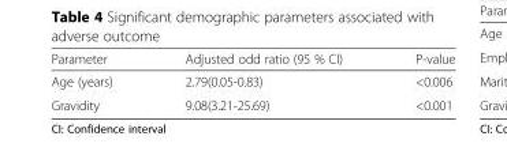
<table><thead><tr><td>Parameter</td><td>Adjusted odd ratio (95 % CI)</td><td>P-value</td></tr></thead><tbody><tr><td>Age (years)</td><td>2.79(0.05-0.83)</td><td>&lt;0.006</td></tr><tr><td>Gravidity</td><td>9.08(3.21-25.69)</td><td>&lt;0.001</td></tr></tbody></table>